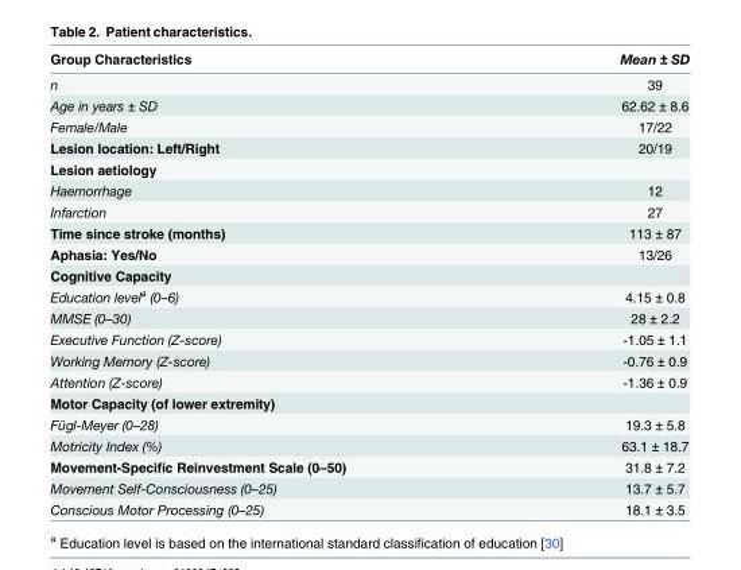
<table><thead><tr><td>Group Characteristics</td><td>Mean ± SD</td></tr></thead><tbody><tr><td>n</td><td>39</td></tr><tr><td>Age in years ± SD</td><td>62.62 ± 8.6</td></tr><tr><td>Female/Male</td><td>17/22</td></tr><tr><td>Lesion location: Left/Right</td><td>20/19</td></tr><tr><td colspan="2">Lesion aetiology</td></tr><tr><td>Haemorrhage</td><td>12</td></tr><tr><td>Infarction</td><td>27</td></tr><tr><td>Time since stroke (months)</td><td>113 ± 87</td></tr><tr><td>Aphasia: Yes/No</td><td>13/26</td></tr><tr><td colspan="2">Cognitive Capacity</td></tr><tr><td>Education level<sup>a</sup> (0–6)</td><td>4.15 ± 0.8</td></tr><tr><td>MMSE (0–30)</td><td>28 ± 2.2</td></tr><tr><td>Executive Function (Z-score)</td><td>-1.05 ± 1.1</td></tr><tr><td>Working Memory (Z-score)</td><td>-0.76 ± 0.9</td></tr><tr><td>Attention (Z-score)</td><td>-1.36 ± 0.9</td></tr><tr><td colspan="2">Motor Capacity (of lower extremity)</td></tr><tr><td>Fügl-Meyer (0–28)</td><td>19.3 ± 5.8</td></tr><tr><td>Motricity Index (%)</td><td>63.1 ± 18.7</td></tr><tr><td>Movement-Specific Reinvestment Scale (0–50)</td><td>31.8 ± 7.2</td></tr><tr><td>Movement Self-Consciousness (0–25)</td><td>13.7 ± 5.7</td></tr><tr><td>Conscious Motor Processing (0–25)</td><td>18.1 ± 3.5</td></tr></tbody></table>